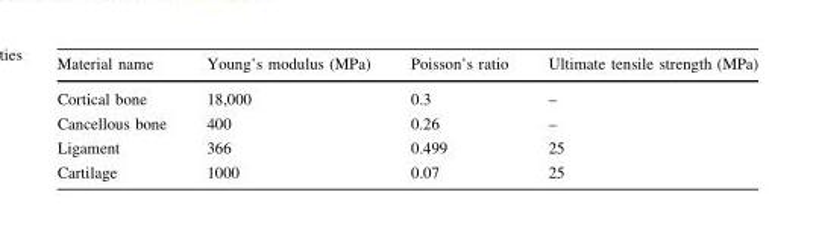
<table><thead><tr><td>Material name</td><td>Young’s modulus (MPa)</td><td>Poisson’s ratio</td><td>Ultimate tensile strength (MPa)</td></tr></thead><tbody><tr><td>Cortical bone</td><td>18,000</td><td>0.3</td><td>–</td></tr><tr><td>Cancellous bone</td><td>400</td><td>0.26</td><td>–</td></tr><tr><td>Ligament</td><td>366</td><td>0.499</td><td>25</td></tr><tr><td>Cartilage</td><td>1000</td><td>0.07</td><td>25</td></tr></tbody></table>